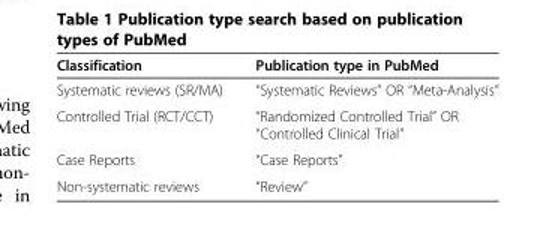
<table><thead><tr><td>Classification</td><td>Publication type in PubMed</td></tr></thead><tbody><tr><td>Systematic reviews (SR/MA)</td><td>“Systematic Reviews” OR “Meta-Analysis”</td></tr><tr><td>Controlled Trial (RCT/CCT)</td><td>“Randomized Controlled Trial” OR “Controlled Clinical Trial”</td></tr><tr><td>Case Reports</td><td>“Case Reports”</td></tr><tr><td>Non-systematic reviews</td><td>“Review”</td></tr></tbody></table>